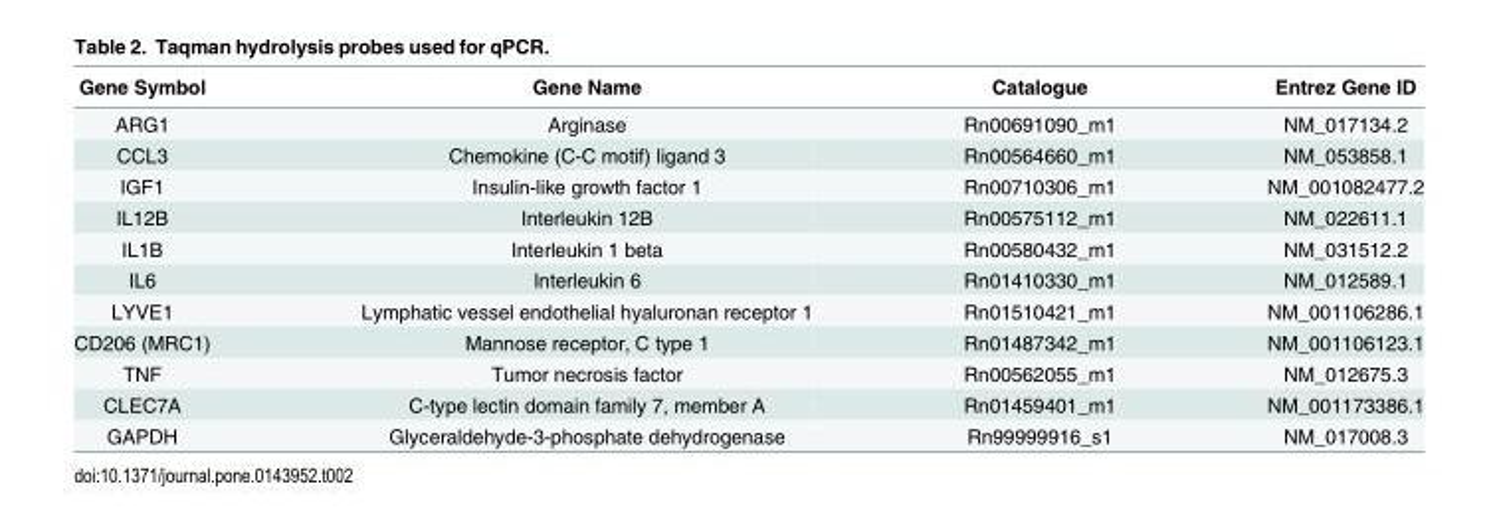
<table><thead><tr><td>Gene Symbol</td><td>Gene Name</td><td>Catalogue</td><td>Entrez Gene ID</td></tr></thead><tbody><tr><td>ARG1</td><td>Arginase</td><td>Rn00691090_m1</td><td>NM_017134.2</td></tr><tr><td>CCL3</td><td>Chemokine (C-C motif) ligand 3</td><td>Rn00564660_m1</td><td>NM_053858.1</td></tr><tr><td>IGF1</td><td>Insulin-like growth factor 1</td><td>Rn00710306_m1</td><td>NM_001082477.2</td></tr><tr><td>IL12B</td><td>Interleukin 12B</td><td>Rn00575112_m1</td><td>NM_022611.1</td></tr><tr><td>IL1B</td><td>Interleukin 1 beta</td><td>Rn00580432_m1</td><td>NM_031512.2</td></tr><tr><td>IL6</td><td>Interleukin 6</td><td>Rn01410330_m1</td><td>NM_012589.1</td></tr><tr><td>LYVE1</td><td>Lymphatic vessel endothelial hyaluronan receptor 1</td><td>Rn01510421_m1</td><td>NM_001106286.1</td></tr><tr><td>CD206 (MRC1)</td><td>Mannose receptor, C type 1</td><td>Rn01487342_m1</td><td>NM_001106123.1</td></tr><tr><td>TNF</td><td>Tumor necrosis factor</td><td>Rn00562055_m1</td><td>NM_012675.3</td></tr><tr><td>CLEC7A</td><td>C-type lectin domain family 7, member A</td><td>Rn01459401_m1</td><td>NM_001173386.1</td></tr><tr><td>GAPDH</td><td>Glyceraldehyde-3-phosphate dehydrogenase</td><td>Rn99999916_s1</td><td>NM_017008.3</td></tr></tbody></table>